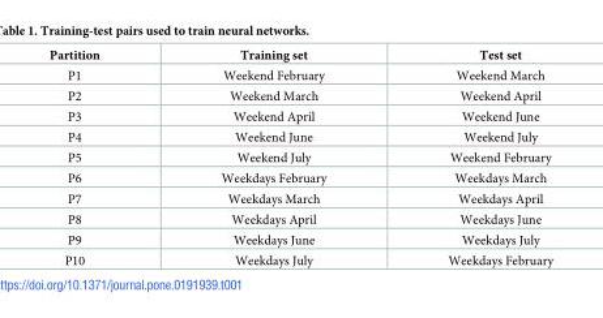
<table><thead><tr><td>Partition</td><td>Training set</td><td>Test set</td></tr></thead><tbody><tr><td>P1</td><td>Weekend February</td><td>Weekend March</td></tr><tr><td>P2</td><td>Weekend March</td><td>Weekend April</td></tr><tr><td>P3</td><td>Weekend April</td><td>Weekend June</td></tr><tr><td>P4</td><td>Weekend June</td><td>Weekend July</td></tr><tr><td>P5</td><td>Weekend July</td><td>Weekend February</td></tr><tr><td>P6</td><td>Weekdays February</td><td>Weekdays March</td></tr><tr><td>P7</td><td>Weekdays March</td><td>Weekdays April</td></tr><tr><td>P8</td><td>Weekdays April</td><td>Weekdays June</td></tr><tr><td>P9</td><td>Weekdays June</td><td>Weekdays July</td></tr><tr><td>P10</td><td>Weekdays July</td><td>Weekdays February</td></tr></tbody></table>